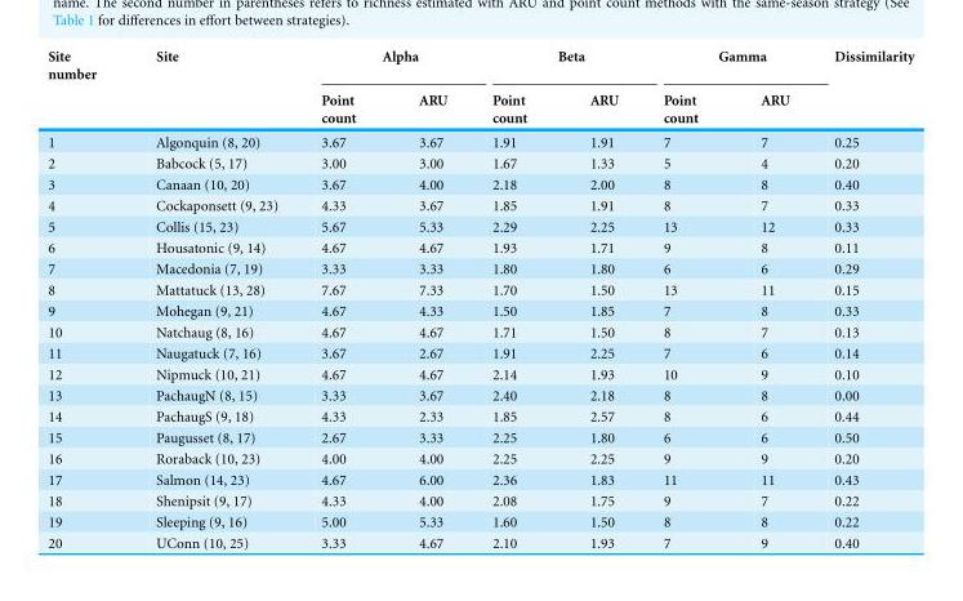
<table><thead><tr><td rowspan="2">Site number</td><td rowspan="2">Site</td><td colspan="2">Alpha</td><td colspan="2">Beta</td><td colspan="2">Gamma</td><td rowspan="2">Dissimilarity</td></tr><tr><td>Point count</td><td>ARU</td><td>Point count</td><td>ARU</td><td>Point count</td><td>ARU</td></tr></thead><tbody><tr><td>1</td><td>Algonquin (8, 20)</td><td>3.67</td><td>3.67</td><td>1.91</td><td>1.91</td><td>7</td><td>7</td><td>0.25</td></tr><tr><td>2</td><td>Babcock (5, 17)</td><td>3.00</td><td>3.00</td><td>1.67</td><td>1.33</td><td>5</td><td>4</td><td>0.20</td></tr><tr><td>3</td><td>Canaan (10, 20)</td><td>3.67</td><td>4.00</td><td>2.18</td><td>2.00</td><td>8</td><td>8</td><td>0.40</td></tr><tr><td>4</td><td>Cockaponsett (9, 23)</td><td>4.33</td><td>3.67</td><td>1.85</td><td>1.91</td><td>8</td><td>7</td><td>0.33</td></tr><tr><td>5</td><td>Collis (15, 23)</td><td>5.67</td><td>5.33</td><td>2.29</td><td>2.25</td><td>13</td><td>12</td><td>0.33</td></tr><tr><td>6</td><td>Housatonic (9, 14)</td><td>4.67</td><td>4.67</td><td>1.93</td><td>1.71</td><td>9</td><td>8</td><td>0.11</td></tr><tr><td>7</td><td>Macedonia (7, 19)</td><td>3.33</td><td>3.33</td><td>1.80</td><td>1.80</td><td>6</td><td>6</td><td>0.29</td></tr><tr><td>8</td><td>Mattatuck (13, 28)</td><td>7.67</td><td>7.33</td><td>1.70</td><td>1.50</td><td>13</td><td>11</td><td>0.15</td></tr><tr><td>9</td><td>Mohegan (9, 21)</td><td>4.67</td><td>4.33</td><td>1.50</td><td>1.85</td><td>7</td><td>8</td><td>0.33</td></tr><tr><td>10</td><td>Natchaug (8, 16)</td><td>4.67</td><td>4.67</td><td>1.71</td><td>1.50</td><td>8</td><td>7</td><td>0.13</td></tr><tr><td>11</td><td>Naugatuck (7, 16)</td><td>3.67</td><td>2.67</td><td>1.91</td><td>2.25</td><td>7</td><td>6</td><td>0.14</td></tr><tr><td>12</td><td>Nipmuck (10, 21)</td><td>4.67</td><td>4.67</td><td>2.14</td><td>1.93</td><td>10</td><td>9</td><td>0.10</td></tr><tr><td>13</td><td>PachaugN (8, 15)</td><td>3.33</td><td>3.67</td><td>2.40</td><td>2.18</td><td>8</td><td>8</td><td>0.00</td></tr><tr><td>14</td><td>PachaugS (9, 18)</td><td>4.33</td><td>2.33</td><td>1.85</td><td>2.57</td><td>8</td><td>6</td><td>0.44</td></tr><tr><td>15</td><td>Paugusset (8, 17)</td><td>2.67</td><td>3.33</td><td>2.25</td><td>1.80</td><td>6</td><td>6</td><td>0.50</td></tr><tr><td>16</td><td>Roraback (10, 23)</td><td>4.00</td><td>4.00</td><td>2.25</td><td>2.25</td><td>9</td><td>9</td><td>0.20</td></tr><tr><td>17</td><td>Salmon (14, 23)</td><td>4.67</td><td>6.00</td><td>2.36</td><td>1.83</td><td>11</td><td>11</td><td>0.43</td></tr><tr><td>18</td><td>Shenipsit (9, 17)</td><td>4.33</td><td>4.00</td><td>2.08</td><td>1.75</td><td>9</td><td>7</td><td>0.22</td></tr><tr><td>19</td><td>Sleeping (9, 16)</td><td>5.00</td><td>5.33</td><td>1.60</td><td>1.50</td><td>8</td><td>8</td><td>0.22</td></tr><tr><td>20</td><td>UConn (10, 25)</td><td>3.33</td><td>4.67</td><td>2.10</td><td>1.93</td><td>7</td><td>9</td><td>0.40</td></tr></tbody></table>